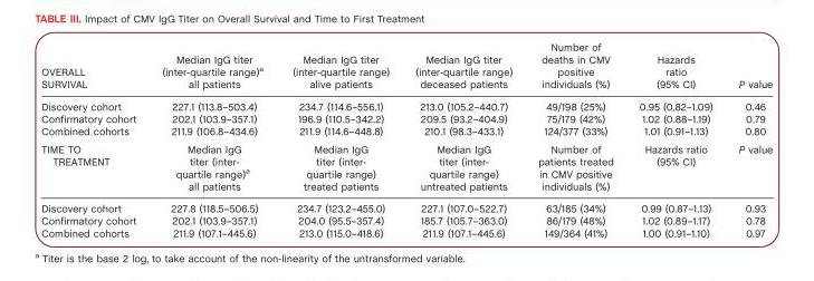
<table><thead><tr><td>OVERALL SURVIVAL</td><td>Median IgG titer (inter-quartile range)<sup>a</sup> all patients</td><td>Median IgG titer (inter-quartile range) alive patients</td><td>Median IgG titer (inter-quartile range) deceased patients</td><td>Number of deaths in CMV positive individuals (%)</td><td>Hazards ratio (95% CI)</td><td>P value</td></tr></thead><tbody><tr><td>Discovery cohort</td><td>227.1 (113.8–503.4)</td><td>234.7 (114.6–556.1)</td><td>213.0 (105.2–440.7)</td><td>49/198 (25%)</td><td>0.95 (0.82–1.09)</td><td>0.46</td></tr><tr><td>Confirmatory cohort</td><td>202.1 (103.9–357.1)</td><td>196.9 (110.5–342.2)</td><td>209.5 (93.2–404.9)</td><td>75/179 (42%)</td><td>1.02 (0.88–1.19)</td><td>0.79</td></tr><tr><td>Combined cohorts</td><td>211.9 (106.8–434.6)</td><td>211.9 (114.6–448.8)</td><td>210.1 (98.3–433.1)</td><td>124/377 (33%)</td><td>1.01 (0.91–1.13)</td><td>0.80</td></tr><tr><td>TIME TO TREATMENT</td><td>Median IgG titer (inter- quartile range)<sup>a</sup> all patients</td><td>Median IgG titer (inter- quartile range) treated patients</td><td>Median IgG titer (inter- quartile range) untreated patients</td><td>Number of patients treated in CMV positive individuals (%)</td><td>Hazards ratio (95% CI)</td><td>P value</td></tr><tr><td>Discovery cohort</td><td>227.8 (118.5–506.5)</td><td>234.7 (123.2–455.0)</td><td>227.1 (107.0–522.7)</td><td>63/185 (34%)</td><td>0.99 (0.87–1.13)</td><td>0.93</td></tr><tr><td>Confirmatory cohort</td><td>202.1 (103.9–357.1)</td><td>204.0 (95.5–357.4)</td><td>185.7 (105.7–363.0)</td><td>86/179 (48%)</td><td>1.02 (0.89–1.17)</td><td>0.78</td></tr><tr><td>Combined cohorts</td><td>211.9 (107.1–445.6)</td><td>213.0 (115.0–418.6)</td><td>211.9 (107.1–445.6)</td><td>149/364 (41%)</td><td>1.00 (0.91–1.10)</td><td>0.97</td></tr></tbody></table>